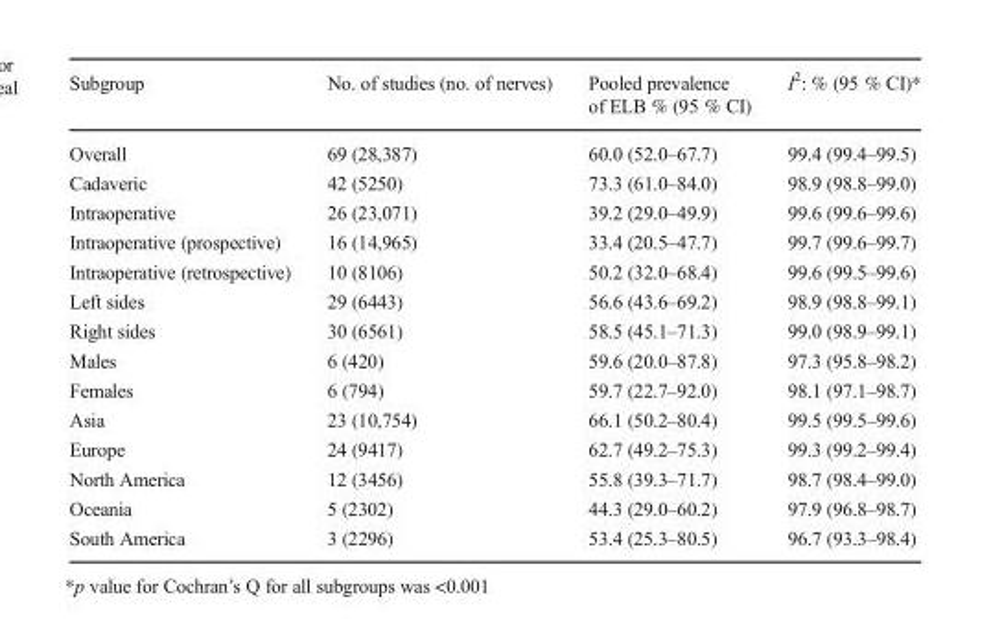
<table><thead><tr><td>Subgroup</td><td>No. of studies (no. of nerves)</td><td>Pooled prevalence of ELB % (95 % CI)</td><td>I<sup>2</sup>: % (95 % CI)*</td></tr></thead><tbody><tr><td>Overall</td><td>69 (28,387)</td><td>60.0 (52.0–67.7)</td><td>99.4 (99.4–99.5)</td></tr><tr><td>Cadaveric</td><td>42 (5250)</td><td>73.3 (61.0–84.0)</td><td>98.9 (98.8–99.0)</td></tr><tr><td>Intraoperative</td><td>26 (23,071)</td><td>39.2 (29.0–49.9)</td><td>99.6 (99.6–99.6)</td></tr><tr><td>Intraoperative (prospective)</td><td>16 (14,965)</td><td>33.4 (20.5–47.7)</td><td>99.7 (99.6–99.7)</td></tr><tr><td>Intraoperative (retrospective)</td><td>10 (8106)</td><td>50.2 (32.0–68.4)</td><td>99.6 (99.5–99.6)</td></tr><tr><td>Left sides</td><td>29 (6443)</td><td>56.6 (43.6–69.2)</td><td>98.9 (98.8–99.1)</td></tr><tr><td>Right sides</td><td>30 (6561)</td><td>58.5 (45.1–71.3)</td><td>99.0 (98.9–99.1)</td></tr><tr><td>Males</td><td>6 (420)</td><td>59.6 (20.0–87.8)</td><td>97.3 (95.8–98.2)</td></tr><tr><td>Females</td><td>6 (794)</td><td>59.7 (22.7–92.0)</td><td>98.1 (97.1–98.7)</td></tr><tr><td>Asia</td><td>23 (10,754)</td><td>66.1 (50.2–80.4)</td><td>99.5 (99.5–99.6)</td></tr><tr><td>Europe</td><td>24 (9417)</td><td>62.7 (49.2–75.3)</td><td>99.3 (99.2–99.4)</td></tr><tr><td>North America</td><td>12 (3456)</td><td>55.8 (39.3–71.7)</td><td>98.7 (98.4–99.0)</td></tr><tr><td>Oceania</td><td>5 (2302)</td><td>44.3 (29.0–60.2)</td><td>97.9 (96.8–98.7)</td></tr><tr><td>South America</td><td>3 (2296)</td><td>53.4 (25.3–80.5)</td><td>96.7 (93.3–98.4)</td></tr></tbody></table>